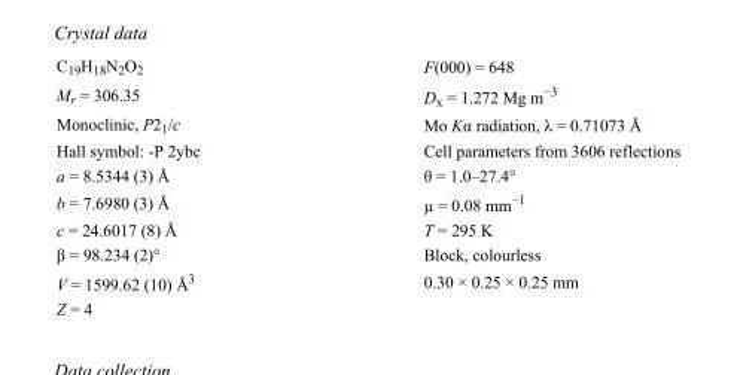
<table><tbody><tr><td>C<sub>19</sub>H<sub>18</sub>N<sub>2</sub>O<sub>2</sub></td><td>F(000) = 648</td></tr><tr><td>M<sub>r</sub> = 306.35</td><td>D<sub>x</sub> = 1.272 Mg m<sup>−3</sup></td></tr><tr><td>Monoclinic, P2<sub>1</sub>/c</td><td>Mo Kα radiation, λ = 0.71073 Å</td></tr><tr><td>Hall symbol: -P 2ybc</td><td>Cell parameters from 3606 reflections</td></tr><tr><td>a = 8.5344 (3) Å</td><td>θ = 1.0–27.4°</td></tr><tr><td>b = 7.6980 (3) Å</td><td>µ = 0.08 mm<sup>−1</sup></td></tr><tr><td>c = 24.6017 (8) Å</td><td>T = 295 K</td></tr><tr><td>β = 98.234 (2)°</td><td>Block, colourless</td></tr><tr><td>V = 1599.62 (10) Å<sup>3</sup></td><td>0.30 × 0.25 × 0.25 mm</td></tr><tr><td>Z = 4</td><td></td></tr></tbody></table>